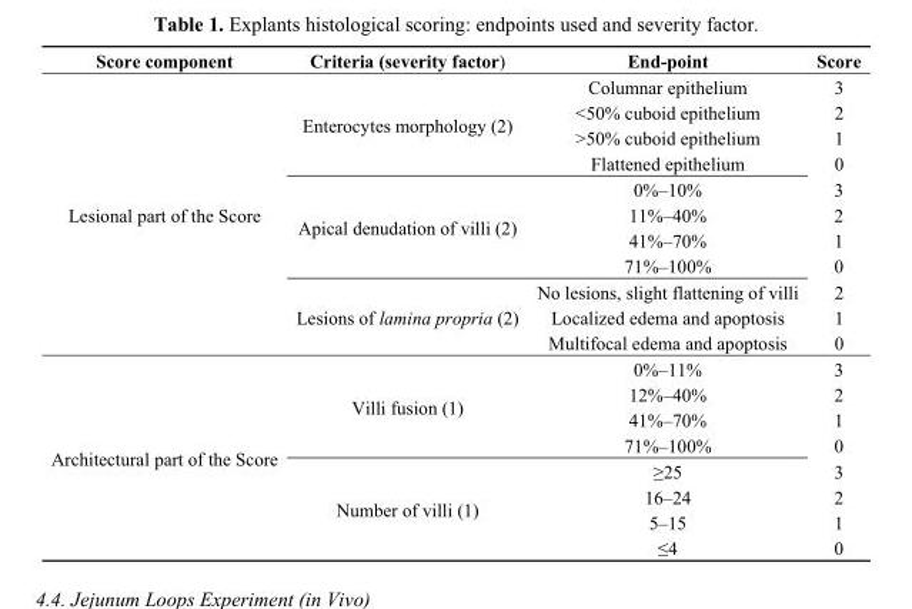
<table><thead><tr><td>Score component</td><td>Criteria (severity factor)</td><td>End-point</td><td>Score</td></tr></thead><tbody><tr><td rowspan="11">Lesional part of the Score</td><td rowspan="4">Enterocytes morphology (2)</td><td>Columnar epithelium</td><td>3</td></tr><tr><td>&lt;50% cuboid epithelium</td><td>2</td></tr><tr><td>&gt;50% cuboid epithelium</td><td>1</td></tr><tr><td>Flattened epithelium</td><td>0</td></tr><tr><td rowspan="4">Apical denudation of villi (2)</td><td>0%–10%</td><td>3</td></tr><tr><td>11%–40%</td><td>2</td></tr><tr><td>41%–70%</td><td>1</td></tr><tr><td>71%–100%</td><td>0</td></tr><tr><td rowspan="3">Lesions of lamina propria (2)</td><td>No lesions, slight flattening of villi</td><td>2</td></tr><tr><td>Localized edema and apoptosis</td><td>1</td></tr><tr><td>Multifocal edema and apoptosis</td><td>0</td></tr><tr><td rowspan="8">Architectural part of the Score</td><td rowspan="4">Villi fusion (1)</td><td>0%–11%</td><td>3</td></tr><tr><td>12%–40%</td><td>2</td></tr><tr><td>41%–70%</td><td>1</td></tr><tr><td>71%–100%</td><td>0</td></tr><tr><td rowspan="4">Number of villi (1)</td><td>≥25</td><td>3</td></tr><tr><td>16–24</td><td>2</td></tr><tr><td>5–15</td><td>1</td></tr><tr><td>≤4</td><td>0</td></tr></tbody></table>